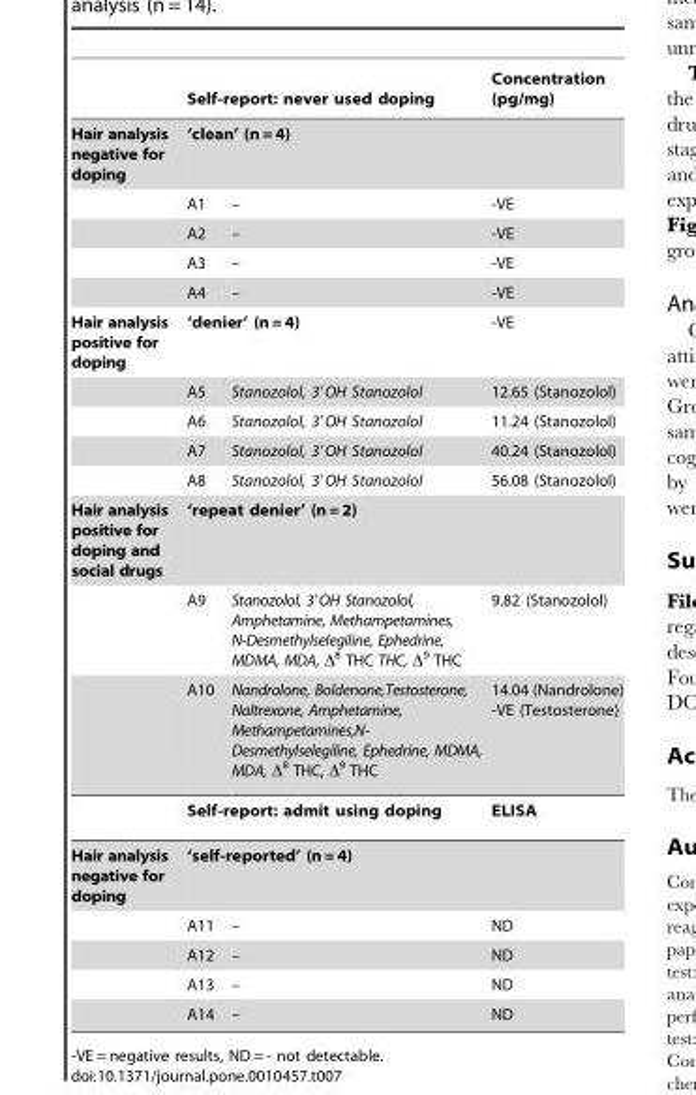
<table><thead><tr><td rowspan="3">Hair analysis negative for doping</td><td rowspan="2" colspan="2">Self-report: never used doping ‘clean’ (n = 4)</td><td rowspan="3">Concentration (pg/mg) -VE</td></tr><tr></tr><tr><td>A1</td><td>–</td></tr></thead><tbody><tr><td></td><td>A2</td><td>–</td><td>-VE</td></tr><tr><td></td><td>A3</td><td>–</td><td>-VE</td></tr><tr><td></td><td>A4</td><td>–</td><td>-VE</td></tr><tr><td rowspan="5">Hair analysis positive for doping</td><td colspan="2">‘denier’ (n = 4)</td><td>-VE</td></tr><tr><td>A5</td><td>Stanozolol, 3′OH Stanozolol</td><td>12.65 (Stanozolol)</td></tr><tr><td>A6</td><td>Stanozolol, 3′OH Stanozolol</td><td>11.24 (Stanozolol)</td></tr><tr><td>A7</td><td>Stanozolol, 3′OH Stanozolol</td><td>40.24 (Stanozolol)</td></tr><tr><td>A8</td><td>Stanozolol, 3′OH Stanozolol</td><td>56.08 (Stanozolol)</td></tr><tr><td rowspan="4">Hair analysis positive for doping and social drugs</td><td colspan="2">‘repeat denier’ (n = 2)</td><td></td></tr><tr><td>A9</td><td>Stanozolol, 3′OH Stanozolol, Amphetamine, Methampetamines, N-Desmethylselegiline, Ephedrine, MDMA, MDA, Δ<sup>8</sup> THC THC, Δ<sup>9</sup> THC</td><td>9.82 (Stanozolol)</td></tr><tr><td>A10</td><td>Nandrolone, Boldenone,Testosterone, Naltrexone, Amphetamine, Methampetamines,N- Desmethylselegiline, Ephedrine, MDMA, MDA, Δ<sup>8</sup> THC, Δ<sup>9</sup> THC</td><td>14.04 (Nandrolone) -VE (Testosterone)</td></tr><tr><td colspan="2">Self-report: admit using doping</td><td>ELISA</td></tr><tr><td rowspan="5">Hair analysis negative for doping</td><td colspan="2">‘self-reported’ (n = 4)</td><td></td></tr><tr><td>A11</td><td>–</td><td>ND</td></tr><tr><td>A12</td><td>–</td><td>ND</td></tr><tr><td>A13</td><td>–</td><td>ND</td></tr><tr><td>A14</td><td>–</td><td>ND</td></tr></tbody></table>